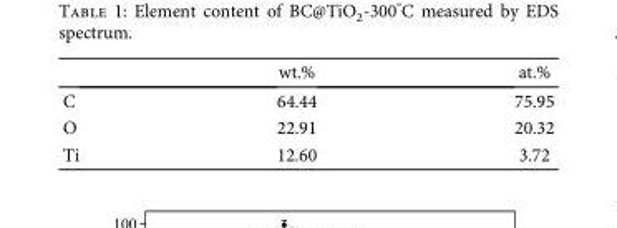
<table><thead><tr><td></td><td>wt.%</td><td>at.%</td></tr></thead><tbody><tr><td>C</td><td>64.44</td><td>75.95</td></tr><tr><td>O</td><td>22.91</td><td>20.32</td></tr><tr><td>Ti</td><td>12.60</td><td>3.72</td></tr></tbody></table>